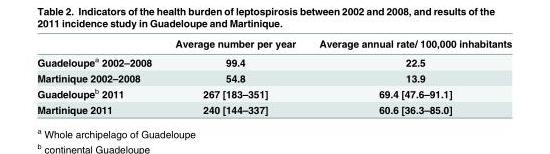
<table><thead><tr><td></td><td>Average number per year</td><td>Average annual rate/ 100,000 inhabitants</td></tr></thead><tbody><tr><td>Guadeloupe<sup>a</sup> 2002–2008</td><td>99.4</td><td>22.5</td></tr><tr><td>Martinique 2002–2008</td><td>54.8</td><td>13.9</td></tr><tr><td>Guadeloupe<sup>b</sup> 2011</td><td>267 [183–351]</td><td>69.4 [47.6–91.1]</td></tr><tr><td>Martinique 2011</td><td>240 [144–337]</td><td>60.6 [36.3–85.0]</td></tr></tbody></table>